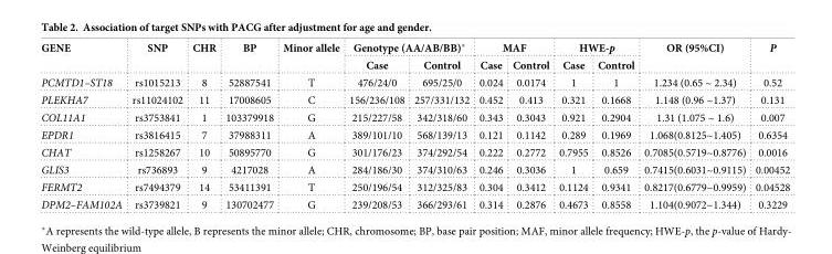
<table><thead><tr><td rowspan="2">GENE</td><td rowspan="2">SNP</td><td rowspan="2">CHR</td><td rowspan="2">BP</td><td rowspan="2">Minor allele</td><td colspan="2">Genotype (AA/AB/BB)*</td><td colspan="2">MAF</td><td colspan="2">HWE-p</td><td rowspan="2">OR (95%CI)</td><td rowspan="2">P</td></tr><tr><td>Case</td><td>Control</td><td>Case</td><td>Control</td><td>Case</td><td>Control</td></tr></thead><tbody><tr><td>PCMTD1–ST18</td><td>rs1015213</td><td>8</td><td>52887541</td><td>T</td><td>476/24/0</td><td>695/25/0</td><td>0.024</td><td>0.0174</td><td>1</td><td>1</td><td>1.234 (0.65 ~ 2.34)</td><td>0.52</td></tr><tr><td>PLEKHA7</td><td>rs11024102</td><td>11</td><td>17008605</td><td>C</td><td>156/236/108</td><td>257/331/132</td><td>0.452</td><td>0.413</td><td>0.321</td><td>0.1668</td><td>1.148 (0.96 ~1.37)</td><td>0.131</td></tr><tr><td>COL11A1</td><td>rs3753841</td><td>1</td><td>103379918</td><td>G</td><td>215/227/58</td><td>342/318/60</td><td>0.343</td><td>0.3043</td><td>0.921</td><td>0.2904</td><td>1.31 (1.075 ~ 1.6)</td><td>0.007</td></tr><tr><td>EPDR1</td><td>rs3816415</td><td>7</td><td>37988311</td><td>A</td><td>389/101/10</td><td>568/139/13</td><td>0.121</td><td>0.1142</td><td>0.289</td><td>0.1969</td><td>1.068(0.8125~1.405)</td><td>0.6354</td></tr><tr><td>CHAT</td><td>rs1258267</td><td>10</td><td>50895770</td><td>G</td><td>301/176/23</td><td>374/292/54</td><td>0.222</td><td>0.2772</td><td>0.7955</td><td>0.8526</td><td>0.7085(0.5719~0.8776)</td><td>0.0016</td></tr><tr><td>GLIS3</td><td>rs736893</td><td>9</td><td>4217028</td><td>A</td><td>284/186/30</td><td>374/310/63</td><td>0.246</td><td>0.3036</td><td>1</td><td>0.659</td><td>0.7415(0.6031~0.9115)</td><td>0.00452</td></tr><tr><td>FERMT2</td><td>rs7494379</td><td>14</td><td>53411391</td><td>T</td><td>250/196/54</td><td>312/325/83</td><td>0.304</td><td>0.3412</td><td>0.1124</td><td>0.9341</td><td>0.8217(0.6779~0.9959)</td><td>0.04528</td></tr><tr><td>DPM2–FAM102A</td><td>rs3739821</td><td>9</td><td>130702477</td><td>G</td><td>239/208/53</td><td>366/293/61</td><td>0.314</td><td>0.2876</td><td>0.4673</td><td>0.8558</td><td>1.104(0.9072~1.344)</td><td>0.3229</td></tr></tbody></table>